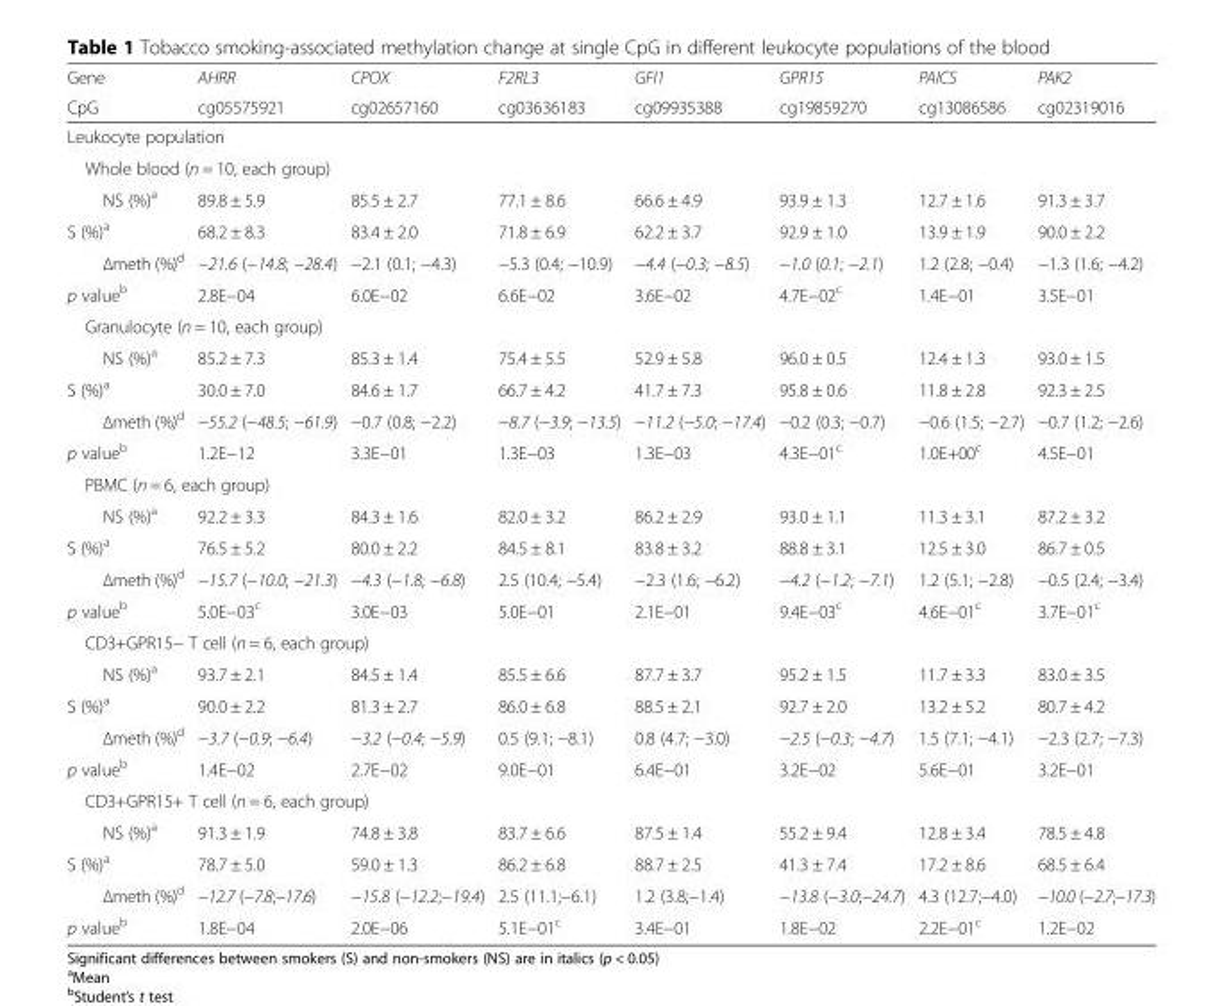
<table><thead><tr><td rowspan="2">Gene CpG</td><td rowspan="2">AHRR cg05575921</td><td rowspan="2">CPOX cg02657160</td><td rowspan="2">F2RL3 cg03636183</td><td rowspan="2">GFI1 cg09935388</td><td rowspan="2">GPR15 cg19859270</td><td rowspan="2">PAICS cg13086586</td><td rowspan="2">PAK2 cg02319016</td></tr><tr></tr></thead><tbody><tr><td colspan="8">Leukocyte population</td></tr><tr><td colspan="8">Whole blood (n = 10, each group)</td></tr><tr><td>NS (%)<sup>a</sup></td><td>89.8 ± 5.9</td><td>85.5 ± 2.7</td><td>77.1 ± 8.6</td><td>66.6 ± 4.9</td><td>93.9 ± 1.3</td><td>12.7 ± 1.6</td><td>91.3 ± 3.7</td></tr><tr><td>S (%)<sup>a</sup></td><td>68.2 ± 8.3</td><td>83.4 ± 2.0</td><td>71.8 ± 6.9</td><td>62.2 ± 3.7</td><td>92.9 ± 1.0</td><td>13.9 ± 1.9</td><td>90.0 ± 2.2</td></tr><tr><td>Δmeth (%)d</td><td>−21.6 (−14.8; −28.4)</td><td>−2.1 (0.1; −4.3)</td><td>−5.3 (0.4; −10.9)</td><td>−4.4 (−0.3; −8.5)</td><td>−1.0 (0.1; −2.1)</td><td>1.2 (2.8; −0.4)</td><td>−1.3 (1.6; −4.2)</td></tr><tr><td>p value<sup>b</sup></td><td>2.8E−04</td><td>6.0E−02</td><td>6.6E−02</td><td>3.6E−02</td><td>4.7E−02<sup>c</sup></td><td>1.4E−01</td><td>3.5E−01</td></tr><tr><td colspan="8">Granulocyte (n = 10, each group)</td></tr><tr><td>NS (%)<sup>a</sup></td><td>85.2 ± 7.3</td><td>85.3 ± 1.4</td><td>75.4 ± 5.5</td><td>52.9 ± 5.8</td><td>96.0 ± 0.5</td><td>12.4 ± 1.3</td><td>93.0 ± 1.5</td></tr><tr><td>S (%)<sup>a</sup></td><td>30.0 ± 7.0</td><td>84.6 ± 1.7</td><td>66.7 ± 4.2</td><td>41.7 ± 7.3</td><td>95.8 ± 0.6</td><td>11.8 ± 2.8</td><td>92.3 ± 2.5</td></tr><tr><td>Δmeth (%)d</td><td>−55.2 (−48.5; −61.9)</td><td>−0.7 (0.8; −2.2)</td><td>−8.7 (−3.9; −13.5)</td><td>−11.2 (−5.0; −17.4)</td><td>−0.2 (0.3; −0.7)</td><td>−0.6 (1.5; −2.7)</td><td>−0.7 (1.2; −2.6)</td></tr><tr><td>p value<sup>b</sup></td><td>1.2E−12</td><td>3.3E−01</td><td>1.3E−03</td><td>1.3E−03</td><td>4.3E−01<sup>c</sup></td><td>1.0E+00<sup>c</sup></td><td>4.5E−01</td></tr><tr><td colspan="8">PBMC (n = 6, each group)</td></tr><tr><td>NS (%)<sup>a</sup></td><td>92.2 ± 3.3</td><td>84.3 ± 1.6</td><td>82.0 ± 3.2</td><td>86.2 ± 2.9</td><td>93.0 ± 1.1</td><td>11.3 ± 3.1</td><td>87.2 ± 3.2</td></tr><tr><td>S (%)<sup>a</sup></td><td>76.5 ± 5.2</td><td>80.0 ± 2.2</td><td>84.5 ± 8.1</td><td>83.8 ± 3.2</td><td>88.8 ± 3.1</td><td>12.5 ± 3.0</td><td>86.7 ± 0.5</td></tr><tr><td>Δmeth (%)d</td><td>−15.7 (−10.0; −21.3)</td><td>−4.3 (−1.8; −6.8)</td><td>2.5 (10.4; −5.4)</td><td>−2.3 (1.6; −6.2)</td><td>−4.2 (−1.2; −7.1)</td><td>1.2 (5.1; −2.8)</td><td>−0.5 (2.4; −3.4)</td></tr><tr><td>p value<sup>b</sup></td><td>5.0E−03<sup>c</sup></td><td>3.0E−03</td><td>5.0E−01</td><td>2.1E−01</td><td>9.4E−03<sup>c</sup></td><td>4.6E−01<sup>c</sup></td><td>3.7E−01<sup>c</sup></td></tr><tr><td colspan="8">CD3+GPR15− T cell (n = 6, each group)</td></tr><tr><td>NS (%)<sup>a</sup></td><td>93.7 ± 2.1</td><td>84.5 ± 1.4</td><td>85.5 ± 6.6</td><td>87.7 ± 3.7</td><td>95.2 ± 1.5</td><td>11.7 ± 3.3</td><td>83.0 ± 3.5</td></tr><tr><td>S (%)<sup>a</sup></td><td>90.0 ± 2.2</td><td>81.3 ± 2.7</td><td>86.0 ± 6.8</td><td>88.5 ± 2.1</td><td>92.7 ± 2.0</td><td>13.2 ± 5.2</td><td>80.7 ± 4.2</td></tr><tr><td>Δmeth (%)d</td><td>−3.7 (−0.9; −6.4)</td><td>−3.2 (−0.4; −5.9)</td><td>0.5 (9.1; −8.1)</td><td>0.8 (4.7; −3.0)</td><td>−2.5 (−0.3; −4.7)</td><td>1.5 (7.1; −4.1)</td><td>−2.3 (2.7; −7.3)</td></tr><tr><td>p value<sup>b</sup></td><td>1.4E−02</td><td>2.7E−02</td><td>9.0E−01</td><td>6.4E−01</td><td>3.2E−02</td><td>5.6E−01</td><td>3.2E−01</td></tr><tr><td colspan="8">CD3+GPR15+ T cell (n = 6, each group)</td></tr><tr><td>NS (%)<sup>a</sup></td><td>91.3 ± 1.9</td><td>74.8 ± 3.8</td><td>83.7 ± 6.6</td><td>87.5 ± 1.4</td><td>55.2 ± 9.4</td><td>12.8 ± 3.4</td><td>78.5 ± 4.8</td></tr><tr><td>S (%)<sup>a</sup></td><td>78.7 ± 5.0</td><td>59.0 ± 1.3</td><td>86.2 ± 6.8</td><td>88.7 ± 2.5</td><td>41.3 ± 7.4</td><td>17.2 ± 8.6</td><td>68.5 ± 6.4</td></tr><tr><td>Δmeth (%)d</td><td>−12.7 (−7.8;−17.6)</td><td>−15.8 (−12.2;−19.4)</td><td>2.5 (11.1;−6.1)</td><td>1.2 (3.8;−1.4)</td><td>−13.8 (−3.0;−24.7)</td><td>4.3 (12.7;−4.0)</td><td>−10.0 (−2.7;−17.3)</td></tr><tr><td>p value<sup>b</sup></td><td>1.8E−04</td><td>2.0E−06</td><td>5.1E−01<sup>c</sup></td><td>3.4E−01</td><td>1.8E−02</td><td>2.2E−01<sup>c</sup></td><td>1.2E−02</td></tr></tbody></table>